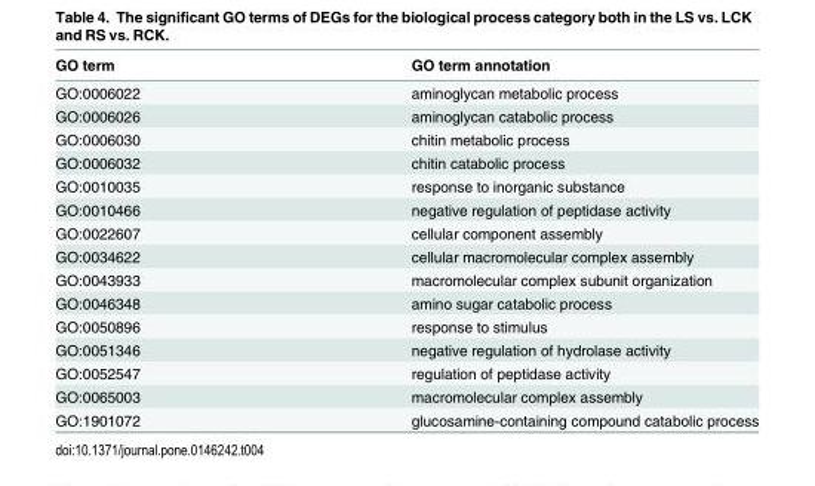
<table><thead><tr><td>GO term</td><td>GO term annotation</td></tr></thead><tbody><tr><td>GO:0006022</td><td>aminoglycan metabolic process</td></tr><tr><td>GO:0006026</td><td>aminoglycan catabolic process</td></tr><tr><td>GO:0006030</td><td>chitin metabolic process</td></tr><tr><td>GO:0006032</td><td>chitin catabolic process</td></tr><tr><td>GO:0010035</td><td>response to inorganic substance</td></tr><tr><td>GO:0010466</td><td>negative regulation of peptidase activity</td></tr><tr><td>GO:0022607</td><td>cellular component assembly</td></tr><tr><td>GO:0034622</td><td>cellular macromolecular complex assembly</td></tr><tr><td>GO:0043933</td><td>macromolecular complex subunit organization</td></tr><tr><td>GO:0046348</td><td>amino sugar catabolic process</td></tr><tr><td>GO:0050896</td><td>response to stimulus</td></tr><tr><td>GO:0051346</td><td>negative regulation of hydrolase activity</td></tr><tr><td>GO:0052547</td><td>regulation of peptidase activity</td></tr><tr><td>GO:0065003</td><td>macromolecular complex assembly</td></tr><tr><td>GO:1901072</td><td>glucosamine-containing compound catabolic process</td></tr></tbody></table>